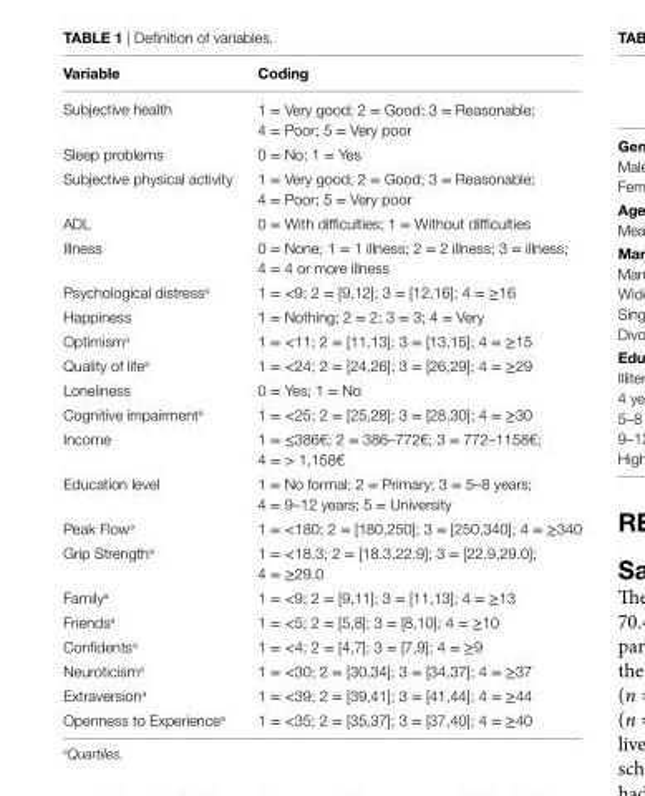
<table><thead><tr><td>Variable</td><td>coding</td></tr></thead><tbody><tr><td>Subjective health</td><td>1 = Very good; 2 = Good; 3 = Reasonable; 4 = Poor; 5 = Very poor</td></tr><tr><td>Sleep problems</td><td>0 = No; 1 = Yes</td></tr><tr><td>Subjective physical activity</td><td>1 = Very good; 2 = Good; 3 = Reasonable; 4 = Poor; 5 = Very poor</td></tr><tr><td>ADL</td><td>0 = With difficulties; 1 = Without difficulties</td></tr><tr><td>Illness</td><td>0 = None; 1 = 1 illness; 2 = 2 illness; 3 = illness; 4 = 4 or more illness</td></tr><tr><td>Psychological distress<sup>a</sup></td><td>1 = &lt;9; 2 = [9,12]; 3 = [12,16]; 4 = ≥16</td></tr><tr><td>Happiness</td><td>1 = Nothing; 2 = 2; 3 = 3; 4 = Very</td></tr><tr><td>Optimism<sup>a</sup></td><td>1 = &lt;11; 2 = [11,13]; 3 = [13,15]; 4 = ≥15</td></tr><tr><td>Quality of life<sup>a</sup></td><td>1 = &lt;24; 2 = [24,26]; 3 = [26,29]; 4 = ≥29</td></tr><tr><td>Loneliness</td><td>0 = Yes; 1 = No</td></tr><tr><td>Cognitive impairment<sup>a</sup></td><td>1 = &lt;25; 2 = [25,28]; 3 = [28,30]; 4 = ≥30</td></tr><tr><td>Income</td><td>1 = ≤386€; 2 = 386–772€; 3 = 772–1158€; 4 = &gt; 1,158€</td></tr><tr><td>Education level</td><td>1 = No formal; 2 = Primary; 3 = 5–8 years; 4 = 9–12 years; 5 = University</td></tr><tr><td>Peak Flow<sup>a</sup></td><td>1 = &lt;180; 2 = [180,250]; 3 = [250,340]; 4 = ≥340</td></tr><tr><td>Grip Strength<sup>a</sup></td><td>1 = &lt;18.3; 2 = [18.3,22.9]; 3 = [22.9,29.0]; 4 = ≥29.0</td></tr><tr><td>Family<sup>a</sup></td><td>1 = &lt;9; 2 = [9,11]; 3 = [11,13]; 4 = ≥13</td></tr><tr><td>Friends<sup>a</sup></td><td>1 = &lt;5; 2 = [5,8]; 3 = [8,10]; 4 = ≥10</td></tr><tr><td>Confidents<sup>a</sup></td><td>1 = &lt;4; 2 = [4,7]; 3 = [7,9]; 4 = ≥9</td></tr><tr><td>Neuroticism<sup>a</sup></td><td>1 = &lt;30; 2 = [30,34]; 3 = [34,37]; 4 = ≥37</td></tr><tr><td>Extraversion<sup>a</sup></td><td>1 = &lt;39; 2 = [39,41]; 3 = [41,44]; 4 = ≥44</td></tr><tr><td>Openness to Experience<sup>a</sup></td><td>1 = &lt;35; 2 = [35,37]; 3 = [37,40]; 4 = ≥40</td></tr></tbody></table>